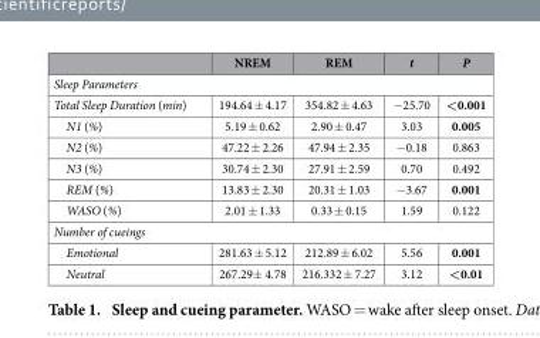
<table><thead><tr><td></td><td>NREM</td><td>REM</td><td>t</td><td>P</td></tr></thead><tbody><tr><td colspan="5">Sleep Parameters</td></tr><tr><td>Total Sleep Duration (min)</td><td>194.64 ± 4.17</td><td>354.82 ± 4.63</td><td>− 25.70</td><td>&lt;0.001</td></tr><tr><td>N1 (%)</td><td>5.19 ± 0.62</td><td>2.90 ± 0.47</td><td>3.03</td><td>0.005</td></tr><tr><td>N2 (%)</td><td>47.22 ± 2.26</td><td>47.94 ± 2.35</td><td>− 0.18</td><td>0.863</td></tr><tr><td>N3 (%)</td><td>30.74 ± 2.30</td><td>27.91 ± 2.59</td><td>0.70</td><td>0.492</td></tr><tr><td>REM (%)</td><td>13.83 ± 2.30</td><td>20.31 ± 1.03</td><td>− 3.67</td><td>0.001</td></tr><tr><td>WASO (%)</td><td>2.01 ± 1.33</td><td>0.33 ± 0.15</td><td>1.59</td><td>0.122</td></tr><tr><td colspan="5">Number of cueings</td></tr><tr><td>Emotional</td><td>281.63 ± 5.12</td><td>212.89 ± 6.02</td><td>5.56</td><td>0.001</td></tr><tr><td>Neutral</td><td>267.29± 4.78</td><td>216.332 ± 7.27</td><td>3.12</td><td>&lt;0.01</td></tr></tbody></table>